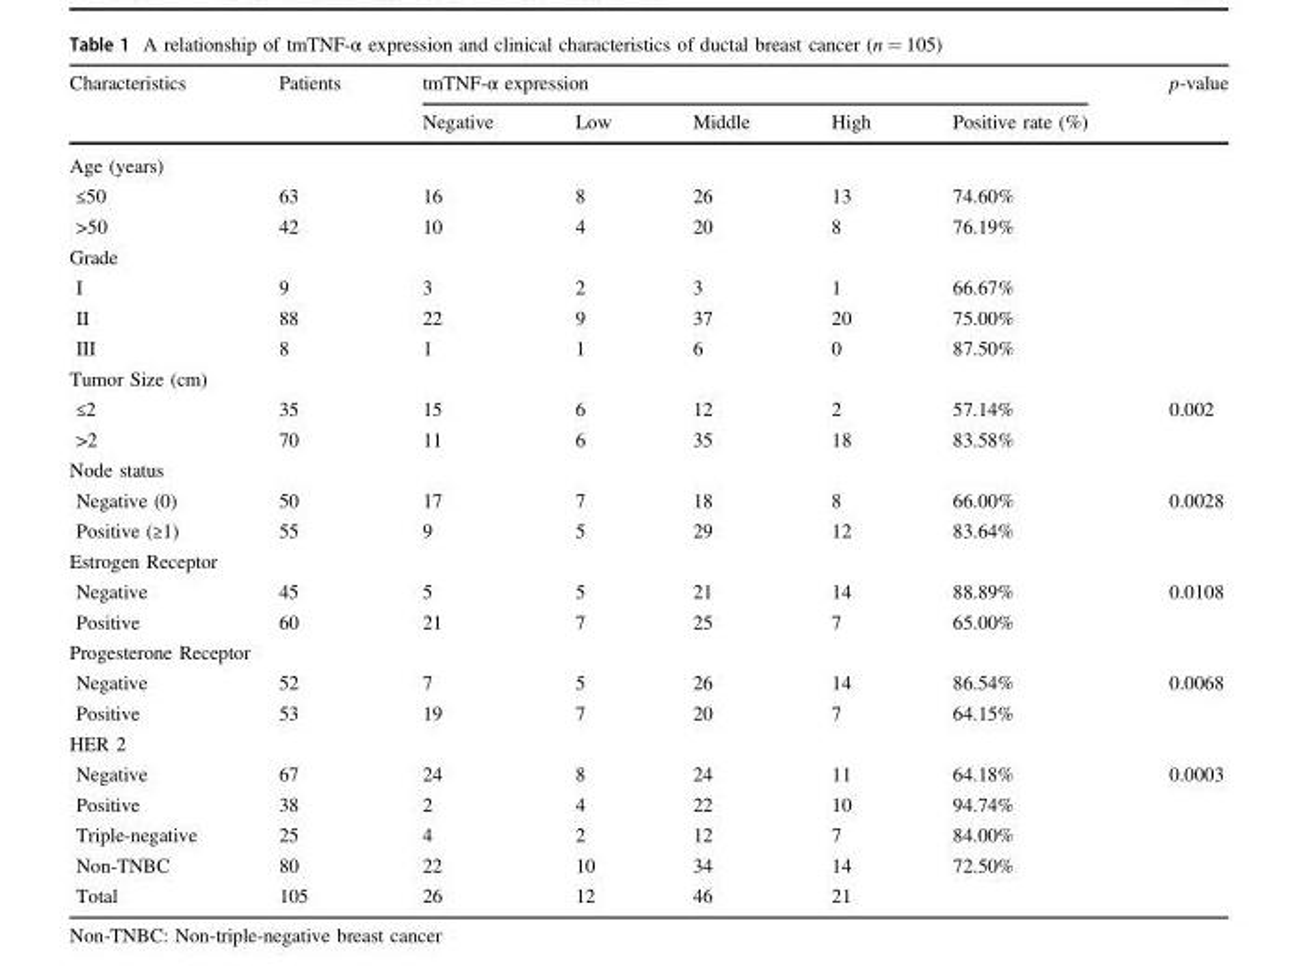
<table><thead><tr><td rowspan="2">Characteristics</td><td rowspan="2">Patients</td><td colspan="5">tmTNF-α expression</td><td rowspan="2">p-value</td></tr><tr><td>Negative</td><td>Low</td><td>Middle</td><td>High</td><td>Positive rate (%)</td></tr></thead><tbody><tr><td colspan="8">Age (years)</td></tr><tr><td>≤50</td><td>63</td><td>16</td><td>8</td><td>26</td><td>13</td><td>74.60%</td><td></td></tr><tr><td>&gt;50</td><td>42</td><td>10</td><td>4</td><td>20</td><td>8</td><td>76.19%</td><td></td></tr><tr><td colspan="8">Grade</td></tr><tr><td>I</td><td>9</td><td>3</td><td>2</td><td>3</td><td>1</td><td>66.67%</td><td></td></tr><tr><td>II</td><td>88</td><td>22</td><td>9</td><td>37</td><td>20</td><td>75.00%</td><td></td></tr><tr><td>III</td><td>8</td><td>1</td><td>1</td><td>6</td><td>0</td><td>87.50%</td><td></td></tr><tr><td colspan="8">Tumor Size (cm)</td></tr><tr><td>≤2</td><td>35</td><td>15</td><td>6</td><td>12</td><td>2</td><td>57.14%</td><td>0.002</td></tr><tr><td>&gt;2</td><td>70</td><td>11</td><td>6</td><td>35</td><td>18</td><td>83.58%</td><td></td></tr><tr><td colspan="8">Node status</td></tr><tr><td>Negative (0)</td><td>50</td><td>17</td><td>7</td><td>18</td><td>8</td><td>66.00%</td><td>0.0028</td></tr><tr><td>Positive (≥1)</td><td>55</td><td>9</td><td>5</td><td>29</td><td>12</td><td>83.64%</td><td></td></tr><tr><td colspan="8">Estrogen Receptor</td></tr><tr><td>Negative</td><td>45</td><td>5</td><td>5</td><td>21</td><td>14</td><td>88.89%</td><td>0.0108</td></tr><tr><td>Positive</td><td>60</td><td>21</td><td>7</td><td>25</td><td>7</td><td>65.00%</td><td></td></tr><tr><td colspan="8">Progesterone Receptor</td></tr><tr><td>Negative</td><td>52</td><td>7</td><td>5</td><td>26</td><td>14</td><td>86.54%</td><td>0.0068</td></tr><tr><td>Positive</td><td>53</td><td>19</td><td>7</td><td>20</td><td>7</td><td>64.15%</td><td></td></tr><tr><td colspan="8">HER 2</td></tr><tr><td>Negative</td><td>67</td><td>24</td><td>8</td><td>24</td><td>11</td><td>64.18%</td><td>0.0003</td></tr><tr><td>Positive</td><td>38</td><td>2</td><td>4</td><td>22</td><td>10</td><td>94.74%</td><td></td></tr><tr><td>Triple-negative</td><td>25</td><td>4</td><td>2</td><td>12</td><td>7</td><td>84.00%</td><td></td></tr><tr><td>Non-TNBC</td><td>80</td><td>22</td><td>10</td><td>34</td><td>14</td><td>72.50%</td><td></td></tr><tr><td>Total</td><td>105</td><td>26</td><td>12</td><td>46</td><td>21</td><td></td><td></td></tr></tbody></table>